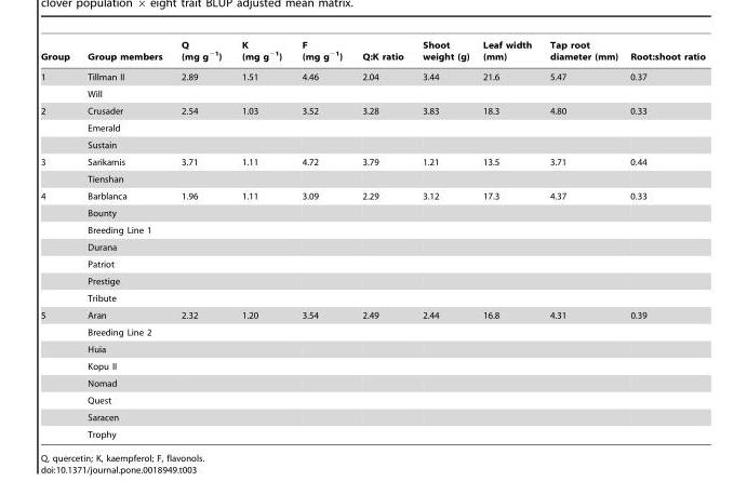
<table><thead><tr><td>Group</td><td>Group members</td><td>Q (mg g<sup>−1</sup>)</td><td>K (mg g<sup>−1</sup>)</td><td>F (mg g<sup>−1</sup>)</td><td>Q:K ratio</td><td>Shoot weight (g)</td><td>Leaf width (mm)</td><td>Tap root diameter (mm)</td><td>Root:shoot ratio</td></tr></thead><tbody><tr><td rowspan="2">1</td><td>Tillman II</td><td>2.89</td><td>1.51</td><td>4.46</td><td>2.04</td><td>3.44</td><td>21.6</td><td>5.47</td><td>0.37</td></tr><tr><td>Will</td><td></td><td></td><td></td><td></td><td></td><td></td><td></td><td></td></tr><tr><td rowspan="3">2</td><td>Crusader</td><td>2.54</td><td>1.03</td><td>3.52</td><td>3.28</td><td>3.83</td><td>18.3</td><td>4.80</td><td>0.33</td></tr><tr><td>Emerald</td><td></td><td></td><td></td><td></td><td></td><td></td><td></td><td></td></tr><tr><td>Sustain</td><td></td><td></td><td></td><td></td><td></td><td></td><td></td><td></td></tr><tr><td rowspan="2">3</td><td>Sarikamis</td><td>3.71</td><td>1.11</td><td>4.72</td><td>3.79</td><td>1.21</td><td>13.5</td><td>3.71</td><td>0.44</td></tr><tr><td>Tienshan</td><td></td><td></td><td></td><td></td><td></td><td></td><td></td><td></td></tr><tr><td rowspan="7">4</td><td>Barblanca</td><td>1.96</td><td>1.11</td><td>3.09</td><td>2.29</td><td>3.12</td><td>17.3</td><td>4.37</td><td>0.33</td></tr><tr><td>Bounty</td><td></td><td></td><td></td><td></td><td></td><td></td><td></td><td></td></tr><tr><td>Breeding Line 1</td><td></td><td></td><td></td><td></td><td></td><td></td><td></td><td></td></tr><tr><td>Durana</td><td></td><td></td><td></td><td></td><td></td><td></td><td></td><td></td></tr><tr><td>Patriot</td><td></td><td></td><td></td><td></td><td></td><td></td><td></td><td></td></tr><tr><td>Prestige</td><td></td><td></td><td></td><td></td><td></td><td></td><td></td><td></td></tr><tr><td>Tribute</td><td></td><td></td><td></td><td></td><td></td><td></td><td></td><td></td></tr><tr><td rowspan="8">5</td><td>Aran</td><td>2.32</td><td>1.20</td><td>3.54</td><td>2.49</td><td>2.44</td><td>16.8</td><td>4.31</td><td>0.39</td></tr><tr><td>Breeding Line 2</td><td></td><td></td><td></td><td></td><td></td><td></td><td></td><td></td></tr><tr><td>Huia</td><td></td><td></td><td></td><td></td><td></td><td></td><td></td><td></td></tr><tr><td>Kopu II</td><td></td><td></td><td></td><td></td><td></td><td></td><td></td><td></td></tr><tr><td>Nomad</td><td></td><td></td><td></td><td></td><td></td><td></td><td></td><td></td></tr><tr><td>Quest</td><td></td><td></td><td></td><td></td><td></td><td></td><td></td><td></td></tr><tr><td>Saracen</td><td></td><td></td><td></td><td></td><td></td><td></td><td></td><td></td></tr><tr><td>Trophy</td><td></td><td></td><td></td><td></td><td></td><td></td><td></td><td></td></tr></tbody></table>